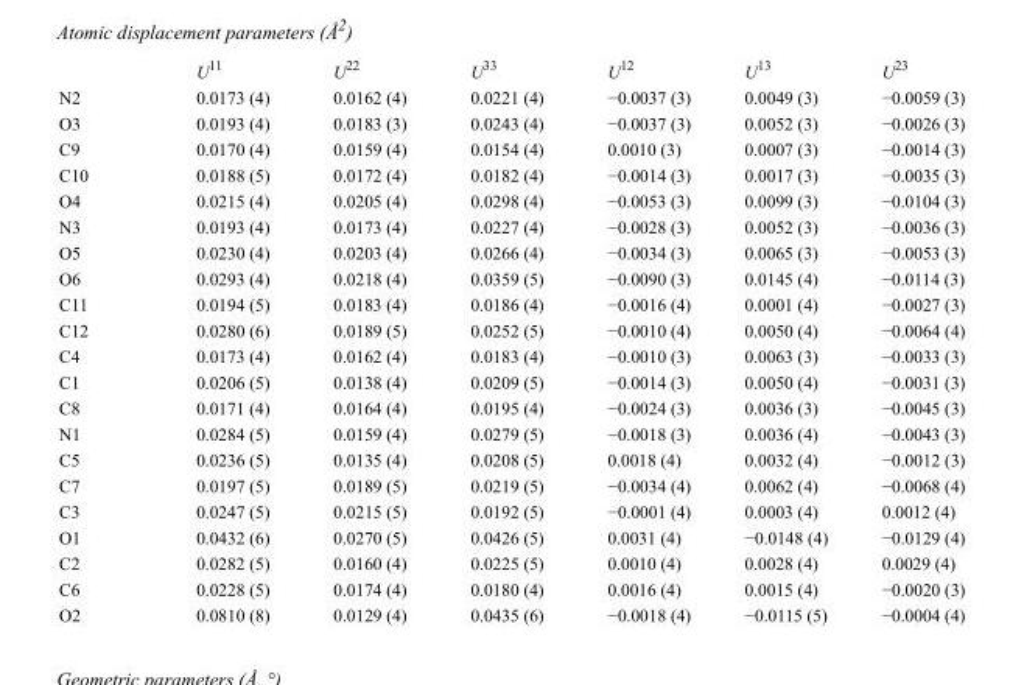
<table><thead><tr><td></td><td>U<sup>11</sup></td><td>U<sup>22</sup></td><td>U<sup>33</sup></td><td>U<sup>12</sup></td><td>U<sup>13</sup></td><td>U<sup>23</sup></td></tr></thead><tbody><tr><td>N2</td><td>0.0173 (4)</td><td>0.0162 (4)</td><td>0.0221 (4)</td><td>−0.0037 (3)</td><td>0.0049 (3)</td><td>−0.0059 (3)</td></tr><tr><td>O3</td><td>0.0193 (4)</td><td>0.0183 (3)</td><td>0.0243 (4)</td><td>−0.0037 (3)</td><td>0.0052 (3)</td><td>−0.0026 (3)</td></tr><tr><td>C9</td><td>0.0170 (4)</td><td>0.0159 (4)</td><td>0.0154 (4)</td><td>0.0010 (3)</td><td>0.0007 (3)</td><td>−0.0014 (3)</td></tr><tr><td>C10</td><td>0.0188 (5)</td><td>0.0172 (4)</td><td>0.0182 (4)</td><td>−0.0014 (3)</td><td>0.0017 (3)</td><td>−0.0035 (3)</td></tr><tr><td>O4</td><td>0.0215 (4)</td><td>0.0205 (4)</td><td>0.0298 (4)</td><td>−0.0053 (3)</td><td>0.0099 (3)</td><td>−0.0104 (3)</td></tr><tr><td>N3</td><td>0.0193 (4)</td><td>0.0173 (4)</td><td>0.0227 (4)</td><td>−0.0028 (3)</td><td>0.0052 (3)</td><td>−0.0036 (3)</td></tr><tr><td>O5</td><td>0.0230 (4)</td><td>0.0203 (4)</td><td>0.0266 (4)</td><td>−0.0034 (3)</td><td>0.0065 (3)</td><td>−0.0053 (3)</td></tr><tr><td>O6</td><td>0.0293 (4)</td><td>0.0218 (4)</td><td>0.0359 (5)</td><td>−0.0090 (3)</td><td>0.0145 (4)</td><td>−0.0114 (3)</td></tr><tr><td>C11</td><td>0.0194 (5)</td><td>0.0183 (4)</td><td>0.0186 (4)</td><td>−0.0016 (4)</td><td>0.0001 (4)</td><td>−0.0027 (3)</td></tr><tr><td>C12</td><td>0.0280 (6)</td><td>0.0189 (5)</td><td>0.0252 (5)</td><td>−0.0010 (4)</td><td>0.0050 (4)</td><td>−0.0064 (4)</td></tr><tr><td>C4</td><td>0.0173 (4)</td><td>0.0162 (4)</td><td>0.0183 (4)</td><td>−0.0010 (3)</td><td>0.0063 (3)</td><td>−0.0033 (3)</td></tr><tr><td>C1</td><td>0.0206 (5)</td><td>0.0138 (4)</td><td>0.0209 (5)</td><td>−0.0014 (3)</td><td>0.0050 (4)</td><td>−0.0031 (3)</td></tr><tr><td>C8</td><td>0.0171 (4)</td><td>0.0164 (4)</td><td>0.0195 (4)</td><td>−0.0024 (3)</td><td>0.0036 (3)</td><td>−0.0045 (3)</td></tr><tr><td>N1</td><td>0.0284 (5)</td><td>0.0159 (4)</td><td>0.0279 (5)</td><td>−0.0018 (3)</td><td>0.0036 (4)</td><td>−0.0043 (3)</td></tr><tr><td>C5</td><td>0.0236 (5)</td><td>0.0135 (4)</td><td>0.0208 (5)</td><td>0.0018 (4)</td><td>0.0032 (4)</td><td>−0.0012 (3)</td></tr><tr><td>C7</td><td>0.0197 (5)</td><td>0.0189 (5)</td><td>0.0219 (5)</td><td>−0.0034 (4)</td><td>0.0062 (4)</td><td>−0.0068 (4)</td></tr><tr><td>C3</td><td>0.0247 (5)</td><td>0.0215 (5)</td><td>0.0192 (5)</td><td>−0.0001 (4)</td><td>0.0003 (4)</td><td>0.0012 (4)</td></tr><tr><td>O1</td><td>0.0432 (6)</td><td>0.0270 (5)</td><td>0.0426 (5)</td><td>0.0031 (4)</td><td>−0.0148 (4)</td><td>−0.0129 (4)</td></tr><tr><td>C2</td><td>0.0282 (5)</td><td>0.0160 (4)</td><td>0.0225 (5)</td><td>0.0010 (4)</td><td>0.0028 (4)</td><td>0.0029 (4)</td></tr><tr><td>C6</td><td>0.0228 (5)</td><td>0.0174 (4)</td><td>0.0180 (4)</td><td>0.0016 (4)</td><td>0.0015 (4)</td><td>−0.0020 (3)</td></tr><tr><td>O2</td><td>0.0810 (8)</td><td>0.0129 (4)</td><td>0.0435 (6)</td><td>−0.0018 (4)</td><td>−0.0115 (5)</td><td>−0.0004 (4)</td></tr></tbody></table>